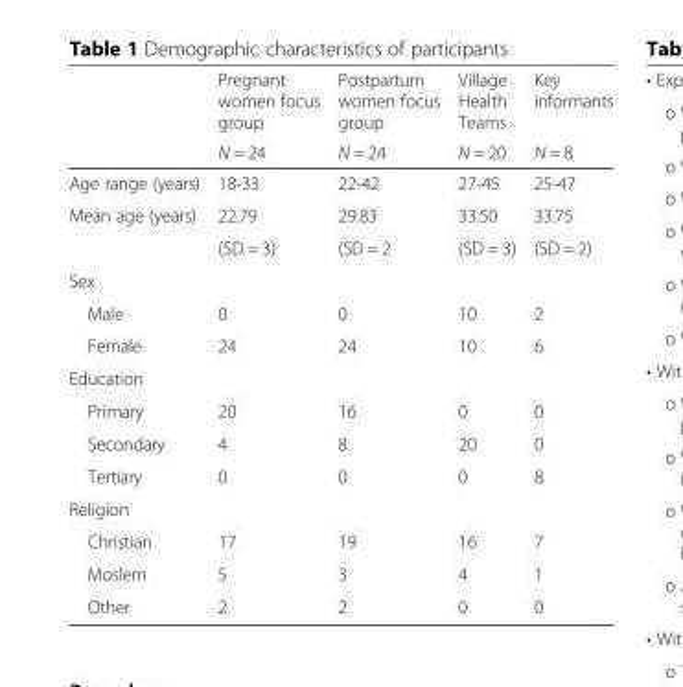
<table><thead><tr><td rowspan="2"></td><td rowspan="2">Pregnant women focus group N = 24</td><td rowspan="2">Postpartum women focus group N = 24</td><td rowspan="2">Village Health Teams N = 20</td><td rowspan="2">Key informants N = 8</td></tr><tr></tr></thead><tbody><tr><td>Age range (years)</td><td>18-33</td><td>22-42</td><td>27-45</td><td>25-47</td></tr><tr><td rowspan="2">Mean age (years)</td><td>22.79</td><td>29.83</td><td>33.50</td><td>33.75</td></tr><tr><td>(SD = 3)</td><td>(SD = 2</td><td>(SD = 3)</td><td>(SD = 2)</td></tr><tr><td colspan="5">Sex</td></tr><tr><td>Male</td><td>0</td><td>0</td><td>10</td><td>2</td></tr><tr><td>Female</td><td>24</td><td>24</td><td>10</td><td>6</td></tr><tr><td colspan="5">Education</td></tr><tr><td>Primary</td><td>20</td><td>16</td><td>0</td><td>0</td></tr><tr><td>Secondary</td><td>4</td><td>8</td><td>20</td><td>0</td></tr><tr><td>Tertiary</td><td>0</td><td>0</td><td>0</td><td>8</td></tr><tr><td colspan="5">Religion</td></tr><tr><td>Christian</td><td>17</td><td>19</td><td>16</td><td>7</td></tr><tr><td>Moslem</td><td>5</td><td>3</td><td>4</td><td>1</td></tr><tr><td>Other</td><td>2</td><td>2</td><td>0</td><td>0</td></tr></tbody></table>